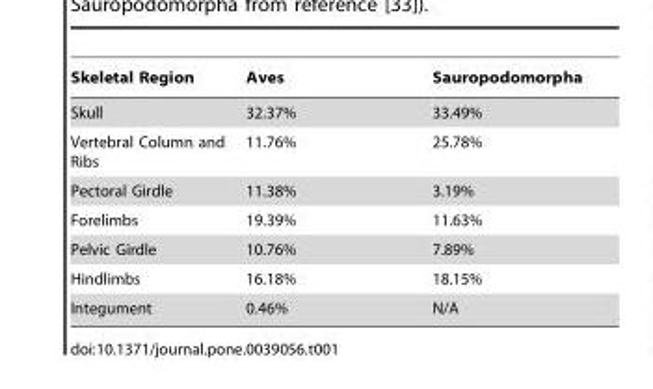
<table><thead><tr><td>Skeletal Region</td><td>Aves</td><td>Sauropodomorpha</td></tr></thead><tbody><tr><td>Skull</td><td>32.37%</td><td>33.49%</td></tr><tr><td>Vertebral Column and Ribs</td><td>11.76%</td><td>25.78%</td></tr><tr><td>Pectoral Girdle</td><td>11.38%</td><td>3.19%</td></tr><tr><td>Forelimbs</td><td>19.39%</td><td>11.63%</td></tr><tr><td>Pelvic Girdle</td><td>10.76%</td><td>7.89%</td></tr><tr><td>Hindlimbs</td><td>16.18%</td><td>18.15%</td></tr><tr><td>Integument</td><td>0.46%</td><td>N/A</td></tr></tbody></table>